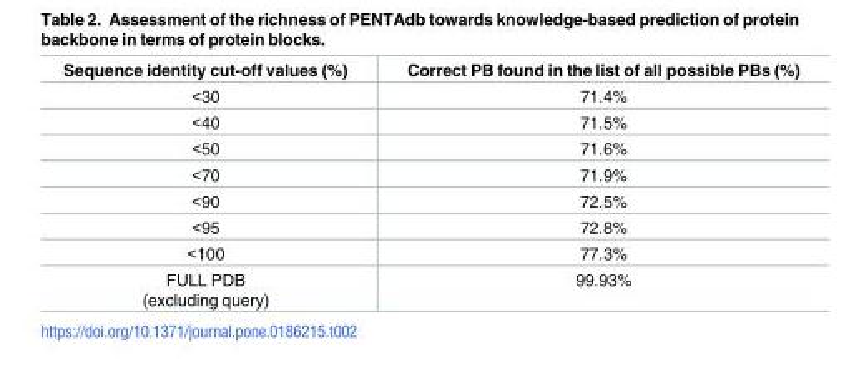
<table><thead><tr><td>Sequence identity cut-off values (%)</td><td>Correct PB found in the list of all possible PBs (%)</td></tr></thead><tbody><tr><td>&lt;30</td><td>71.4%</td></tr><tr><td>&lt;40</td><td>71.5%</td></tr><tr><td>&lt;50</td><td>71.6%</td></tr><tr><td>&lt;70</td><td>71.9%</td></tr><tr><td>&lt;90</td><td>72.5%</td></tr><tr><td>&lt;95</td><td>72.8%</td></tr><tr><td>&lt;100</td><td>77.3%</td></tr><tr><td>FULL PDB (excluding query)</td><td>99.93%</td></tr></tbody></table>